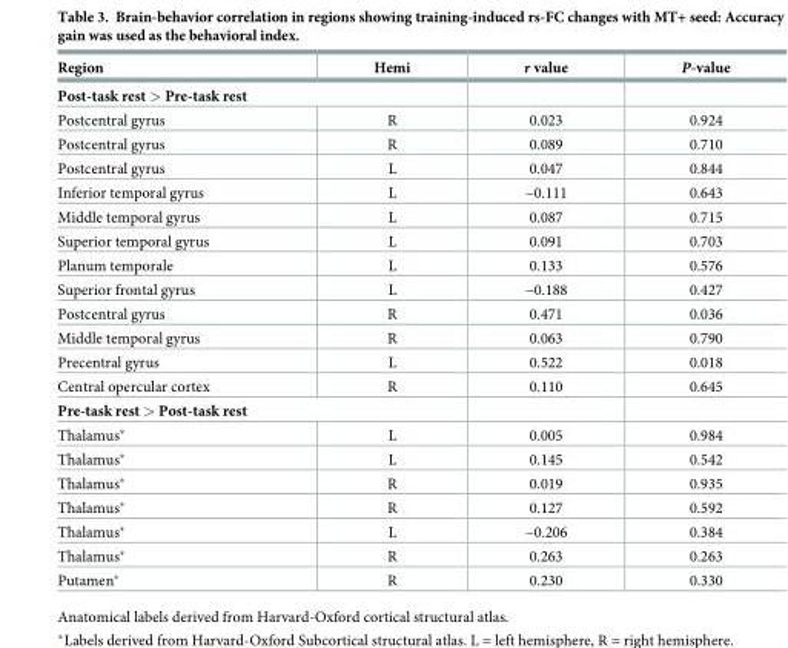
<table><thead><tr><td>Region</td><td>Hemi</td><td>r value</td><td>P-value</td></tr></thead><tbody><tr><td colspan="4">Post-task rest &gt; Pre-task rest</td></tr><tr><td>Postcentral gyrus</td><td>R</td><td>0.023</td><td>0.924</td></tr><tr><td>Postcentral gyrus</td><td>R</td><td>0.089</td><td>0.710</td></tr><tr><td>Postcentral gyrus</td><td>L</td><td>0.047</td><td>0.844</td></tr><tr><td>Inferior temporal gyrus</td><td>L</td><td>−0.111</td><td>0.643</td></tr><tr><td>Middle temporal gyrus</td><td>L</td><td>0.087</td><td>0.715</td></tr><tr><td>Superior temporal gyrus</td><td>L</td><td>0.091</td><td>0.703</td></tr><tr><td>Planum temporale</td><td>L</td><td>0.133</td><td>0.576</td></tr><tr><td>Superior frontal gyrus</td><td>L</td><td>−0.188</td><td>0.427</td></tr><tr><td>Postcentral gyrus</td><td>R</td><td>0.471</td><td>0.036</td></tr><tr><td>Middle temporal gyrus</td><td>R</td><td>0.063</td><td>0.790</td></tr><tr><td>Precentral gyrus</td><td>L</td><td>0.522</td><td>0.018</td></tr><tr><td>Central opercular cortex</td><td>R</td><td>0.110</td><td>0.645</td></tr><tr><td colspan="4">Pre-task rest &gt; Post-task rest</td></tr><tr><td>Thalamus*</td><td>L</td><td>0.005</td><td>0.984</td></tr><tr><td>Thalamus*</td><td>L</td><td>0.145</td><td>0.542</td></tr><tr><td>Thalamus*</td><td>R</td><td>0.019</td><td>0.935</td></tr><tr><td>Thalamus*</td><td>R</td><td>0.127</td><td>0.592</td></tr><tr><td>Thalamus*</td><td>L</td><td>−0.206</td><td>0.384</td></tr><tr><td>Thalamus*</td><td>R</td><td>0.263</td><td>0.263</td></tr><tr><td>Putamen*</td><td>R</td><td>0.230</td><td>0.330</td></tr></tbody></table>